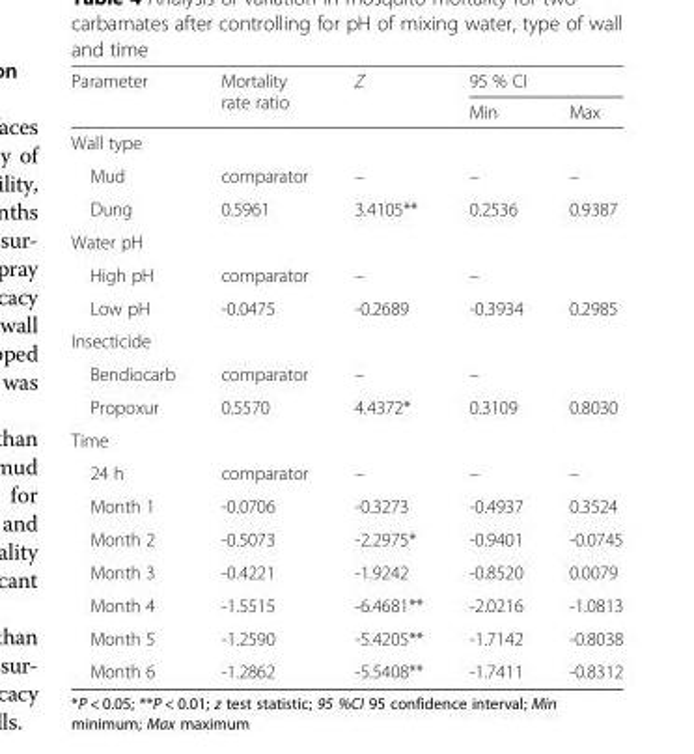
<table><thead><tr><td rowspan="2">Parameter</td><td rowspan="2">Mortality rate ratio</td><td rowspan="2">Z</td><td colspan="2">95 % CI</td></tr><tr><td>Min</td><td>Max</td></tr></thead><tbody><tr><td colspan="5">Wall type</td></tr><tr><td>Mud</td><td>comparator</td><td>–</td><td>–</td><td>–</td></tr><tr><td>Dung</td><td>0.5961</td><td>3.4105**</td><td>0.2536</td><td>0.9387</td></tr><tr><td colspan="5">Water pH</td></tr><tr><td>High pH</td><td>comparator</td><td>–</td><td>–</td><td></td></tr><tr><td>Low pH</td><td>-0.0475</td><td>-0.2689</td><td>-0.3934</td><td>0.2985</td></tr><tr><td colspan="5">Insecticide</td></tr><tr><td>Bendiocarb</td><td>comparator</td><td>–</td><td>–</td><td></td></tr><tr><td>Propoxur</td><td>0.5570</td><td>4.4372*</td><td>0.3109</td><td>0.8030</td></tr><tr><td colspan="5">Time</td></tr><tr><td>24 h</td><td>comparator</td><td>–</td><td>–</td><td>–</td></tr><tr><td>Month 1</td><td>-0.0706</td><td>-0.3273</td><td>-0.4937</td><td>0.3524</td></tr><tr><td>Month 2</td><td>-0.5073</td><td>-2.2975*</td><td>-0.9401</td><td>-0.0745</td></tr><tr><td>Month 3</td><td>-0.4221</td><td>-1.9242</td><td>-0.8520</td><td>0.0079</td></tr><tr><td>Month 4</td><td>-1.5515</td><td>-6.4681**</td><td>-2.0216</td><td>-1.0813</td></tr><tr><td>Month 5</td><td>-1.2590</td><td>-5.4205**</td><td>-1.7142</td><td>-0.8038</td></tr><tr><td>Month 6</td><td>-1.2862</td><td>-5.5408**</td><td>-1.7411</td><td>-0.8312</td></tr></tbody></table>